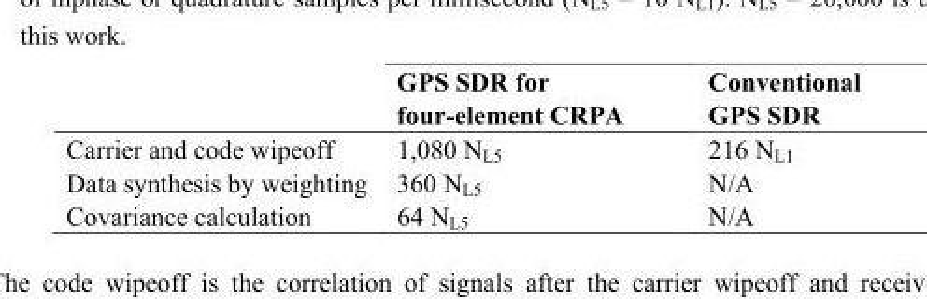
<table><thead><tr><td></td><td>GPS SDR for four-element CRPA</td><td>Conventional GPS SDR</td></tr></thead><tbody><tr><td>Carrier and code wipeoff</td><td>1,080 N<sub>L5</sub></td><td>216 N<sub>L1</sub></td></tr><tr><td>Data synthesis by weighting</td><td>360 N<sub>L5</sub></td><td>N/A</td></tr><tr><td>Covariance calculation</td><td>64 N<sub>L5</sub></td><td>N/A</td></tr></tbody></table>